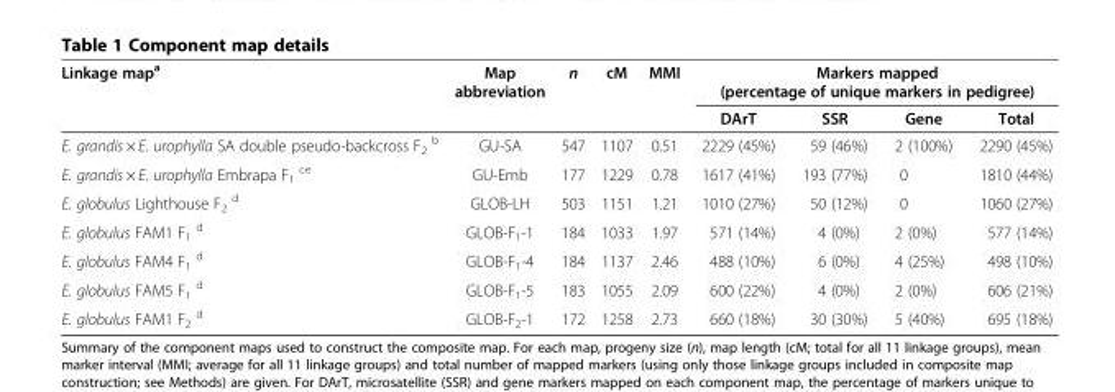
<table><thead><tr><td rowspan="2">Linkage map<sup>a</sup></td><td rowspan="2">Map abbreviation</td><td rowspan="2">n</td><td rowspan="2">cM</td><td rowspan="2">MMI</td><td colspan="4">Markers mapped (percentage of unique markers in pedigree)</td></tr><tr><td>DArT</td><td>SSR</td><td>Gene</td><td>Total</td></tr></thead><tbody><tr><td>E. grandis × E. urophylla SA double pseudo-backcross F<sub>2</sub> <sup>b</sup></td><td>GU-SA</td><td>547</td><td>1107</td><td>0.51</td><td>2229 (45%)</td><td>59 (46%)</td><td>2 (100%)</td><td>2290 (45%)</td></tr><tr><td>E. grandis × E. urophylla Embrapa F<sub>1</sub> <sup>ce</sup></td><td>GU-Emb</td><td>177</td><td>1229</td><td>0.78</td><td>1617 (41%)</td><td>193 (77%)</td><td>0</td><td>1810 (44%)</td></tr><tr><td>E. globulus Lighthouse F<sub>2</sub> <sup>d</sup></td><td>GLOB-LH</td><td>503</td><td>1151</td><td>1.21</td><td>1010 (27%)</td><td>50 (12%)</td><td>0</td><td>1060 (27%)</td></tr><tr><td>E. globulus FAM1 F<sub>1</sub> <sup>d</sup></td><td>GLOB-F<sub>1</sub>-1</td><td>184</td><td>1033</td><td>1.97</td><td>571 (14%)</td><td>4 (0%)</td><td>2 (0%)</td><td>577 (14%)</td></tr><tr><td>E. globulus FAM4 F<sub>1</sub> <sup>d</sup></td><td>GLOB-F<sub>1</sub>-4</td><td>184</td><td>1137</td><td>2.46</td><td>488 (10%)</td><td>6 (0%)</td><td>4 (25%)</td><td>498 (10%)</td></tr><tr><td>E. globulus FAM5 F<sub>1</sub> <sup>d</sup></td><td>GLOB-F<sub>1</sub>-5</td><td>183</td><td>1055</td><td>2.09</td><td>600 (22%)</td><td>4 (0%)</td><td>2 (0%)</td><td>606 (21%)</td></tr><tr><td>E. globulus FAM1 F<sub>2</sub> <sup>d</sup></td><td>GLOB-F<sub>2</sub>-1</td><td>172</td><td>1258</td><td>2.73</td><td>660 (18%)</td><td>30 (30%)</td><td>5 (40%)</td><td>695 (18%)</td></tr></tbody></table>